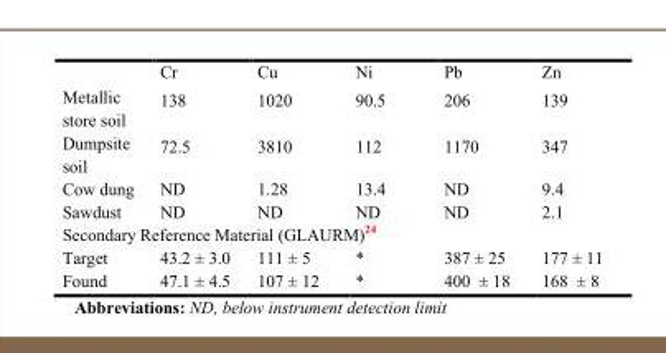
<table><thead><tr><td></td><td>Cr</td><td>Cu</td><td>Ni</td><td>Pb</td><td>Zn</td></tr></thead><tbody><tr><td>Metallic store soil</td><td>138</td><td>1020</td><td>90.5</td><td>206</td><td>139</td></tr><tr><td>Dumpsite soil</td><td>72.5</td><td>3810</td><td>112</td><td>1170</td><td>347</td></tr><tr><td>Cow dung</td><td>ND</td><td>1.28</td><td>13.4</td><td>ND</td><td>9.4</td></tr><tr><td>Sawdust</td><td>ND</td><td>ND</td><td>ND</td><td>ND</td><td>2.1</td></tr><tr><td colspan="6">Secondary Reference Material (GLAURM)<sup>24</sup></td></tr><tr><td>Target</td><td>43.2 ± 3.0</td><td>111 ± 5</td><td>*</td><td>387 ± 25</td><td>177 ± 11</td></tr><tr><td>Found</td><td>47.1 ± 4.5</td><td>107 ± 12</td><td>*</td><td>400 ± 18</td><td>168 ± 8</td></tr></tbody></table>